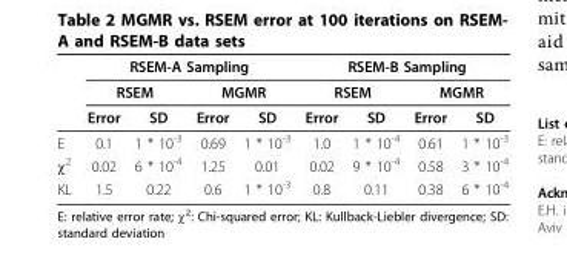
<table><thead><tr><td rowspan="3"></td><td colspan="4">RSEM-A Sampling</td><td colspan="4">RSEM-B Sampling</td></tr><tr><td colspan="2">RSEM</td><td colspan="2">MGMR</td><td colspan="2">RSEM</td><td colspan="2">MGMR</td></tr><tr><td>Error</td><td>SD</td><td>Error</td><td>SD</td><td>Error</td><td>SD</td><td>Error</td><td>SD</td></tr></thead><tbody><tr><td>E</td><td>0.1</td><td>1 * 10<sup>-3</sup></td><td>0.69</td><td>1 * 10<sup>-3</sup></td><td>1.0</td><td>1 * 10<sup>-4</sup></td><td>0.61</td><td>1 * 10<sup>-3</sup></td></tr><tr><td>χ<sup>2</sup></td><td>0.02</td><td>6 * 10<sup>-4</sup></td><td>1.25</td><td>0.01</td><td>0.02</td><td>9 * 10<sup>-4</sup></td><td>0.58</td><td>3 * 10<sup>-4</sup></td></tr><tr><td>KL</td><td>1.5</td><td>0.22</td><td>0.6</td><td>1 * 10<sup>-3</sup></td><td>0.8</td><td>0.11</td><td>0.38</td><td>6 * 10<sup>-4</sup></td></tr></tbody></table>